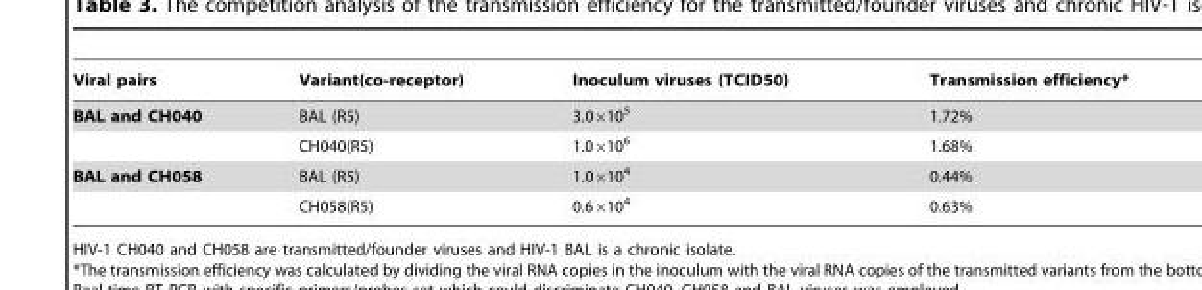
<table><thead><tr><td>Viral pairs</td><td>Variant(co-receptor)</td><td>Inoculum viruses (TCID50)</td><td>Transmission efficiency*</td></tr></thead><tbody><tr><td rowspan="2">BAL and CH040</td><td>BAL (R5)</td><td>3.0×10<sup>5</sup></td><td>1.72%</td></tr><tr><td>CH040(R5)</td><td>1.0×10<sup>6</sup></td><td>1.68%</td></tr><tr><td rowspan="2">BAL and CH058</td><td>BAL (R5)</td><td>1.0×10<sup>4</sup></td><td>0.44%</td></tr><tr><td>CH058(R5)</td><td>0.6×10<sup>4</sup></td><td>0.63%</td></tr></tbody></table>